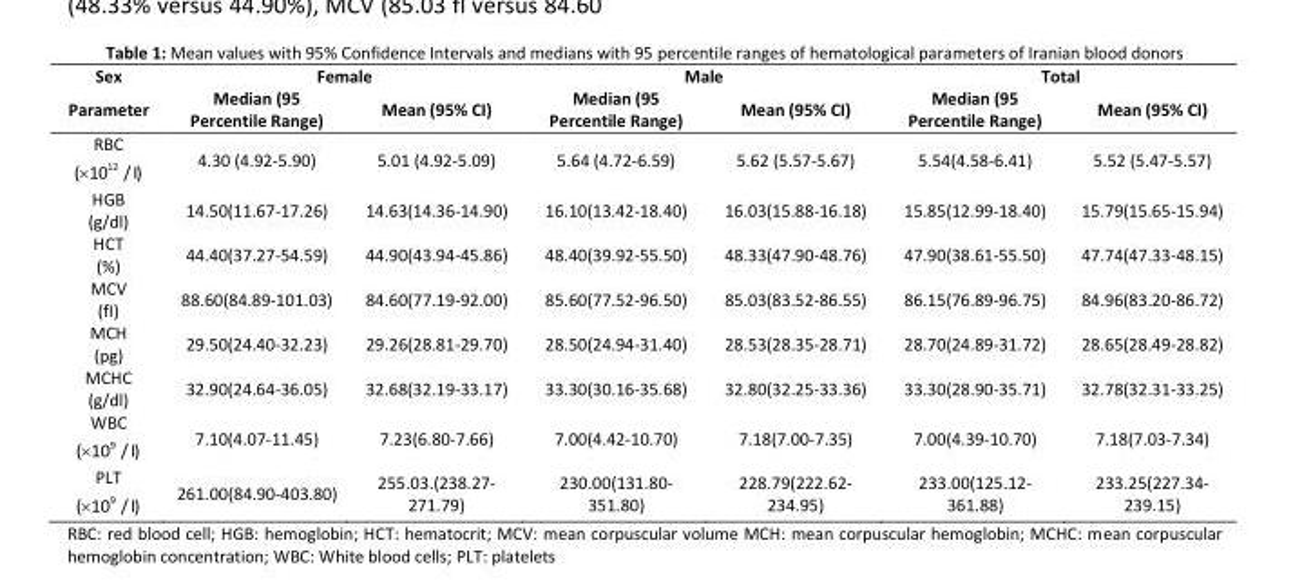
<table><thead><tr><td rowspan="2">Sex Parameter</td><td colspan="2">Female</td><td colspan="2">Male</td><td colspan="2">Total</td></tr><tr><td>Median (95 Percentile Range)</td><td>Mean (95% CI)</td><td>Median (95 Percentile Range)</td><td>Mean (95% CI)</td><td>Median (95 Percentile Range)</td><td>Mean (95% CI)</td></tr></thead><tbody><tr><td>RBC 12 ( 10 /I) </td><td>4.30 (4.92-5.90)</td><td>5.01 (4.92-5.09)</td><td>5.64 (4.72-6.59)</td><td>5.62 (5.57-5.67)</td><td>5.54(4.58-6.41)</td><td>5.52 (5.47-5.57)</td></tr><tr><td>HGB (g/dl)</td><td>14.50(11.67-17.26)</td><td>14.63(14.36-14.90)</td><td>16.10(13.42-18.40)</td><td>16.03(15.88-16.18)</td><td>15.85(12.99-18.40)</td><td>15.79(15.65-15.94)</td></tr><tr><td>HCT (%)</td><td>44.40(37.27-54.59)</td><td>44.90(43.94-45.86)</td><td>48.40(39.92-55.50)</td><td>48.33(47.90-48.76)</td><td>47.90(38.61-55.50)</td><td>47.74(47.33-48.15)</td></tr><tr><td>MCV (fI)</td><td>88.60(84.89-101.03)</td><td>84.60(77.19-92.00)</td><td>85.60(77.52-96.50)</td><td>85.03(83.52-86.55)</td><td>86.15(76.89-96.75)</td><td>84.96(83.20-86.72)</td></tr><tr><td>MCH (pg)</td><td>29.50(24.40-32.23)</td><td>29.26(28.81-29.70)</td><td>28.50(24.94-31.40)</td><td>28.53(28.35-28.71)</td><td>28.70(24.89-31.72)</td><td>28.65(28.49-28.82)</td></tr><tr><td>MCHC (g/dl)</td><td>32.90(24.64-36.05)</td><td>32.68(32.19-33.17)</td><td>33.30(30.16-35.68)</td><td>32.80(32.25-33.36)</td><td>33.30(28.90-35.71)</td><td>32.78(32.31-33.25)</td></tr><tr><td>WBC 9 ( 10 /I) </td><td>7.10(4.07-11.45)</td><td>7.23(6.80-7.66)</td><td>7.00(4.42-10.70)</td><td>7.18(7.00-7.35)</td><td>7.00(4.39-10.70)</td><td>7.18(7.03-7.34)</td></tr><tr><td>PLT 9 ( 10 /I) </td><td>261.00(84.90-403.80)</td><td>255.03.(238.27- 271.79)</td><td>230.00(131.80- 351.80)</td><td>228.79(222.62- 234.95)</td><td>233.00(125.12- 361.88)</td><td>233.25(227.34- 239.15)</td></tr></tbody></table>